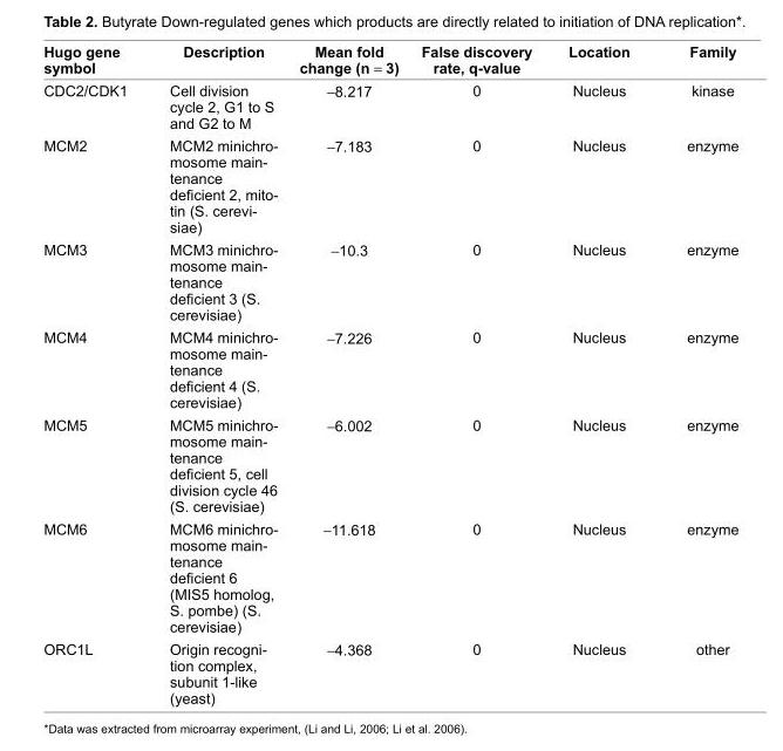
<table><thead><tr><td>Hugo gene symbol</td><td>Description</td><td>Mean fold change (n = 3)</td><td>False discovery rate, q-value</td><td>Location</td><td>Family</td></tr></thead><tbody><tr><td>CDC2/CDK1</td><td>Cell division cycle 2, G1 to S and G2 to M</td><td>−8.217</td><td>0</td><td>Nucleus</td><td>kinase</td></tr><tr><td>MCM2</td><td>MCM2 minichro- mosome main- tenance defi cient 2, mito- tin (S. cerevi- siae)</td><td>−7.183</td><td>0</td><td>Nucleus</td><td>enzyme</td></tr><tr><td>MCM3</td><td>MCM3 minichro- mosome main- tenance defi cient 3 (S. cerevisiae)</td><td>−10.3</td><td>0</td><td>Nucleus</td><td>enzyme</td></tr><tr><td>MCM4</td><td>MCM4 minichro- mosome main- tenance defi cient 4 (S. cerevisiae)</td><td>−7.226</td><td>0</td><td>Nucleus</td><td>enzyme</td></tr><tr><td>MCM5</td><td>MCM5 minichro- mosome main- tenance defi cient 5, cell division cycle 46 (S. cerevisiae)</td><td>−6.002</td><td>0</td><td>Nucleus</td><td>enzyme</td></tr><tr><td>MCM6</td><td>MCM6 minichro- mosome main- tenance defi cient 6 (MIS5 homolog, S. pombe) (S. cerevisiae)</td><td>−11.618</td><td>0</td><td>Nucleus</td><td>enzyme</td></tr><tr><td>ORC1L</td><td>Origin recogni- tion complex, subunit 1-like (yeast)</td><td>−4.368</td><td>0</td><td>Nucleus</td><td>other</td></tr></tbody></table>